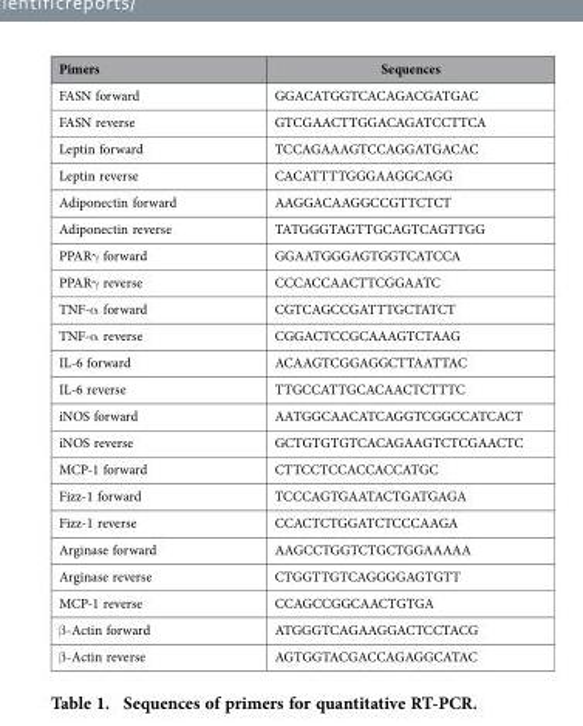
<table><thead><tr><td>Pimers</td><td>Sequences</td></tr></thead><tbody><tr><td>FASN forward</td><td>GGACATGGTCACAGACGATGAC</td></tr><tr><td>FASN reverse</td><td>GTCGAACTTGGACAGATCCTTCA</td></tr><tr><td>Leptin forward</td><td>TCCAGAAAGTCCAGGATGACAC</td></tr><tr><td>Leptin reverse</td><td>CACATTTTGGGAAGGCAGG</td></tr><tr><td>Adiponectin forward</td><td>AAGGACAAGGCCGTTCTCT</td></tr><tr><td>Adiponectin reverse</td><td>TATGGGTAGTTGCAGTCAGTTGG</td></tr><tr><td>PPARγ forward</td><td>GGAATGGGAGTGGTCATCCA</td></tr><tr><td>PPARγ reverse</td><td>CCCACCAACTTCGGAATC</td></tr><tr><td>TNF-α forward</td><td>CGTCAGCCGATTTGCTATCT</td></tr><tr><td>TNF-α reverse</td><td>CGGACTCCGCAAAGTCTAAG</td></tr><tr><td>IL-6 forward</td><td>ACAAGTCGGAGGCTTAATTAC</td></tr><tr><td>IL-6 reverse</td><td>TTGCCATTGCACAACTCTTTC</td></tr><tr><td>iNOS forward</td><td>AATGGCAACATCAGGTCGGCCATCACT</td></tr><tr><td>iNOS reverse</td><td>GCTGTGTGTCACAGAAGTCTCGAACTC</td></tr><tr><td>MCP-1 forward</td><td>CTTCCTCCACCACCATGC</td></tr><tr><td>Fizz-1 forward</td><td>TCCCAGTGAATACTGATGAGA</td></tr><tr><td>Fizz-1 reverse</td><td>CCACTCTGGATCTCCCAAGA</td></tr><tr><td>Arginase forward</td><td>AAGCCTGGTCTGCTGGAAAAA</td></tr><tr><td>Arginase reverse</td><td>CTGGTTGTCAGGGGAGTGTT</td></tr><tr><td>MCP-1 reverse</td><td>CCAGCCGGCAACTGTGA</td></tr><tr><td>β -Actin forward</td><td>ATGGGTCAGAAGGACTCCTACG</td></tr><tr><td>β -Actin reverse</td><td>AGTGGTACGACCAGAGGCATAC</td></tr></tbody></table>